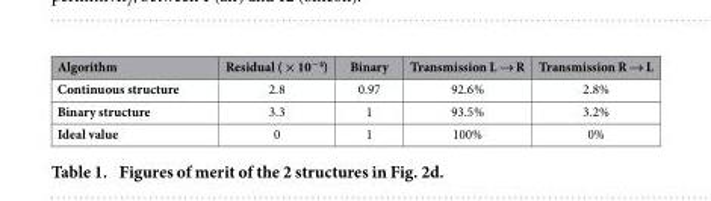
<table><thead><tr><td>Algorithm</td><td>Residual ( × 10<sup>−4</sup>)</td><td>Binary</td><td>Transmission L → R</td><td>Transmission R → L</td></tr></thead><tbody><tr><td>Continuous structure</td><td>2.8</td><td>0.97</td><td>92.6%</td><td>2.8%</td></tr><tr><td>Binary structure</td><td>3.3</td><td>1</td><td>93.5%</td><td>3.2%</td></tr><tr><td>Ideal value</td><td>0</td><td>1</td><td>100%</td><td>0%</td></tr></tbody></table>